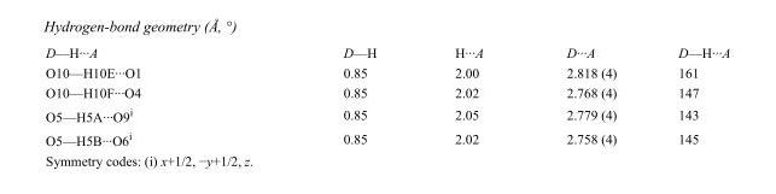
<table><tbody><tr><td>D—H···A</td><td>D—H</td><td>H···A</td><td>D···A</td><td>D—H···A</td></tr><tr><td>O10—H10E···O1</td><td>0.85</td><td>2.00</td><td>2.818 (4)</td><td>161</td></tr><tr><td>O10—H10F···O4</td><td>0.85</td><td>2.02</td><td>2.768 (4)</td><td>147</td></tr><tr><td>O5—H5A···O9<sup>i</sup></td><td>0.85</td><td>2.05</td><td>2.779 (4)</td><td>143</td></tr><tr><td>O5—H5B···O6<sup>i</sup></td><td>0.85</td><td>2.02</td><td>2.758 (4)</td><td>145</td></tr></tbody></table>